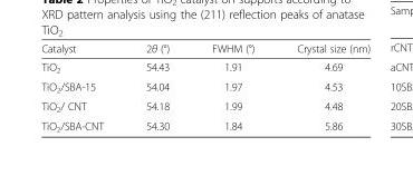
<table><thead><tr><td>Catalyst</td><td>2θ (°)</td><td>FWHM (°)</td><td>Crystal size (nm)</td></tr></thead><tbody><tr><td>TiO<sub>2</sub></td><td>54.43</td><td>1.91</td><td>4.69</td></tr><tr><td>TiO<sub>2</sub>/SBA-15</td><td>54.04</td><td>1.97</td><td>4.53</td></tr><tr><td>TiO<sub>2</sub>/ CNT</td><td>54.18</td><td>1.99</td><td>4.48</td></tr><tr><td>TiO<sub>2</sub>/SBA-CNT</td><td>54.30</td><td>1.84</td><td>5.86</td></tr></tbody></table>